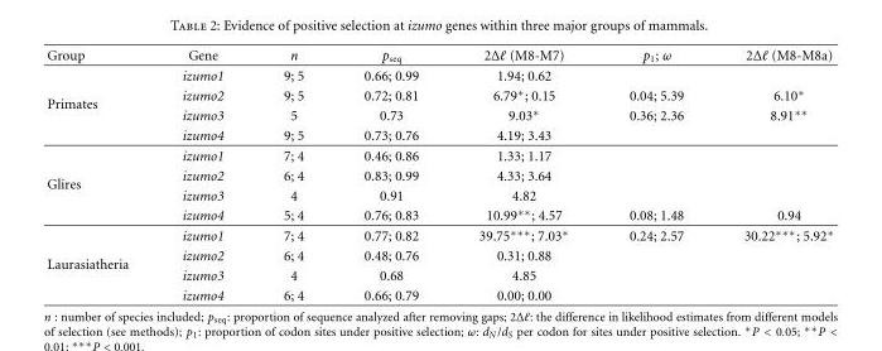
<table><thead><tr><td>Group</td><td>Gene</td><td>n</td><td>p<sub>seq</sub></td><td>2Δℓ (M8-M7)</td><td>p<sub>1</sub>; ω</td><td>2Δℓ (M8-M8a)</td></tr></thead><tbody><tr><td rowspan="4">Primates</td><td>izumo1</td><td>9; 5</td><td>0.66; 0.99</td><td>1.94; 0.62</td><td></td><td></td></tr><tr><td>izumo2</td><td>9; 5</td><td>0.72; 0.81</td><td>6.79∗; 0.15</td><td>0.04; 5.39</td><td>6.10∗</td></tr><tr><td>izumo3</td><td>5</td><td>0.73</td><td>9.03∗</td><td>0.36; 2.36</td><td>8.91∗∗</td></tr><tr><td>izumo4</td><td>9; 5</td><td>0.73; 0.76</td><td>4.19; 3.43</td><td></td><td></td></tr><tr><td rowspan="4">Glires</td><td>izumo1</td><td>7; 4</td><td>0.46; 0.86</td><td>1.33; 1.17</td><td></td><td></td></tr><tr><td>izumo2</td><td>6; 4</td><td>0.83; 0.99</td><td>4.33; 3.64</td><td></td><td></td></tr><tr><td>izumo3</td><td>4</td><td>0.91</td><td>4.82</td><td></td><td></td></tr><tr><td>izumo4</td><td>5; 4</td><td>0.76; 0.83</td><td>10.99∗∗; 4.57</td><td>0.08; 1.48</td><td>0.94</td></tr><tr><td rowspan="4">Laurasiatheria</td><td>izumo1</td><td>7; 4</td><td>0.77; 0.82</td><td>39.75∗∗∗; 7.03∗</td><td>0.24; 2.57</td><td>30.22∗∗∗; 5.92∗</td></tr><tr><td>izumo2</td><td>6; 4</td><td>0.48; 0.76</td><td>0.31; 0.88</td><td></td><td></td></tr><tr><td>izumo3</td><td>4</td><td>0.68</td><td>4.85</td><td></td><td></td></tr><tr><td>izumo4</td><td>6; 4</td><td>0.66; 0.79</td><td>0.00; 0.00</td><td></td><td></td></tr></tbody></table>